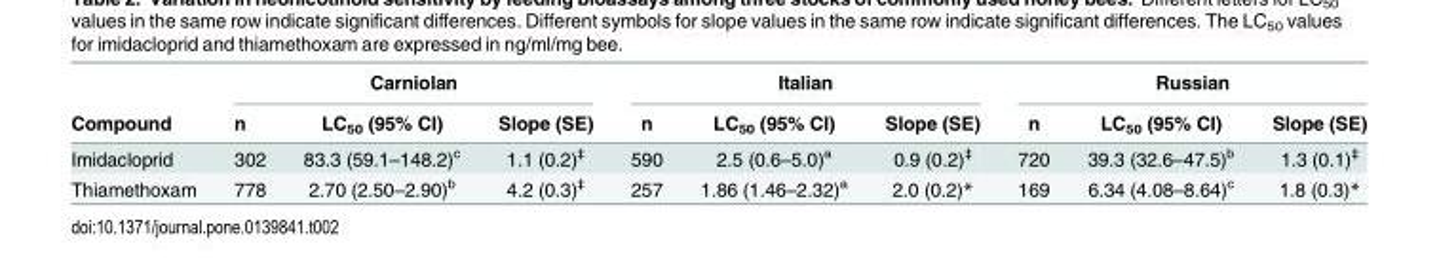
<table><thead><tr><td rowspan="2">Compound</td><td colspan="3">Carniolan</td><td colspan="3">Italian</td><td colspan="3">Russian</td></tr><tr><td>n</td><td>LC<sub>50</sub> (95% CI)</td><td>Slope (SE)</td><td>n</td><td>LC<sub>50</sub> (95% CI)</td><td>Slope (SE)</td><td>n</td><td>LC<sub>50</sub> (95% CI)</td><td>Slope (SE)</td></tr></thead><tbody><tr><td>Imidacloprid</td><td>302</td><td>83.3 (59.1–148.2)<sup>c</sup></td><td>1.1 (0.2)<sup>‡</sup></td><td>590</td><td>2.5 (0.6–5.0)<sup>a</sup></td><td>0.9 (0.2)<sup>‡</sup></td><td>720</td><td>39.3 (32.6–47.5)<sup>b</sup></td><td>1.3 (0.1)<sup>‡</sup></td></tr><tr><td>Thiamethoxam</td><td>778</td><td>2.70 (2.50–2.90)<sup>b</sup></td><td>4.2 (0.3)<sup>‡</sup></td><td>257</td><td>1.86 (1.46–2.32)<sup>a</sup></td><td>2.0 (0.2)*</td><td>169</td><td>6.34 (4.08–8.64)<sup>c</sup></td><td>1.8 (0.3)*</td></tr></tbody></table>